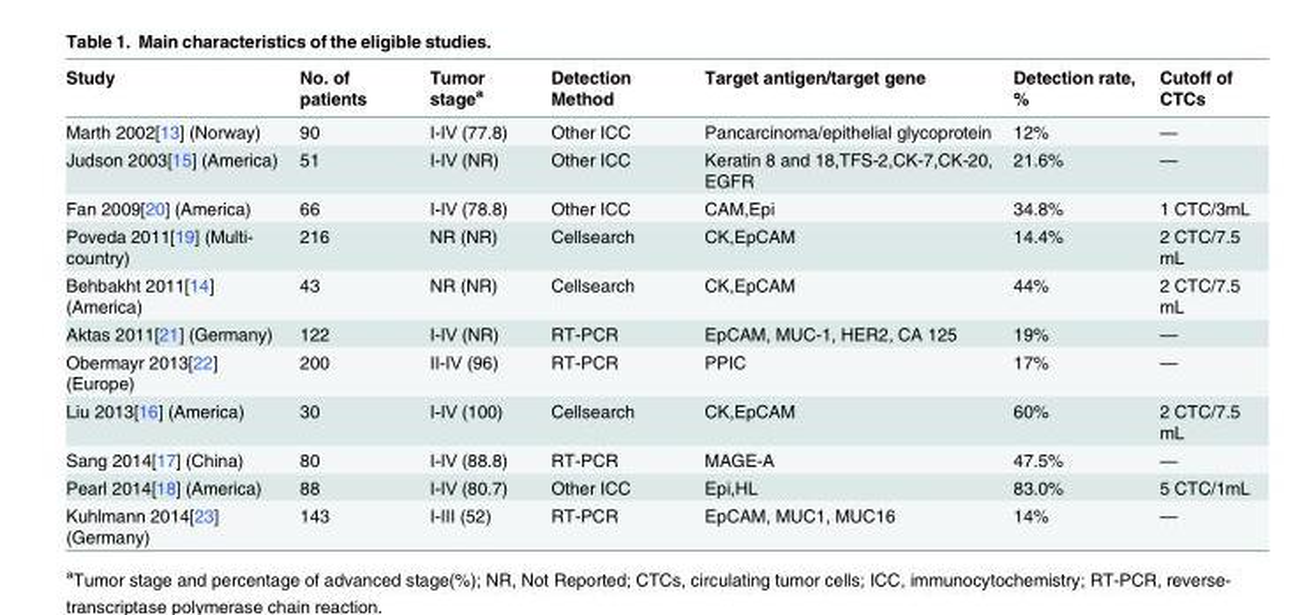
<table><thead><tr><td>Study</td><td>No. of patients</td><td>Tumor stage<sup>a</sup></td><td>Detection Method</td><td>Target antigen/target gene</td><td>Detection rate, %</td><td>Cutoff of CTCs</td></tr></thead><tbody><tr><td>Marth 2002[13] (Norway)</td><td>90</td><td>Ⅰ-Ⅳ (77.8)</td><td>Other ICC</td><td>Pancarcinoma/epithelial glycoprotein</td><td>12%</td><td>—</td></tr><tr><td>Judson 2003[15] (America)</td><td>51</td><td>Ⅰ-Ⅳ (NR)</td><td>Other ICC</td><td>Keratin 8 and 18,TFS-2,CK-7,CK-20, EGFR</td><td>21.6%</td><td>—</td></tr><tr><td>Fan 2009[20] (America)</td><td>66</td><td>Ⅰ-Ⅳ (78.8)</td><td>Other ICC</td><td>CAM,Epi</td><td>34.8%</td><td>1 CTC/3mL</td></tr><tr><td>Poveda 2011[19] (Multi- country)</td><td>216</td><td>NR (NR)</td><td>Cellsearch</td><td>CK,EpCAM</td><td>14.4%</td><td>2 CTC/7.5 mL</td></tr><tr><td>Behbakht 2011[14] (America)</td><td>43</td><td>NR (NR)</td><td>Cellsearch</td><td>CK,EpCAM</td><td>44%</td><td>2 CTC/7.5 mL</td></tr><tr><td>Aktas 2011[21] (Germany)</td><td>122</td><td>Ⅰ-Ⅳ (NR)</td><td>RT-PCR</td><td>EpCAM, MUC-1, HER2, CA 125</td><td>19%</td><td>—</td></tr><tr><td>Obermayr 2013[22] (Europe)</td><td>200</td><td>Ⅱ-Ⅳ (96)</td><td>RT-PCR</td><td>PPIC</td><td>17%</td><td>—</td></tr><tr><td>Liu 2013[16] (America)</td><td>30</td><td>Ⅰ-Ⅳ (100)</td><td>Cellsearch</td><td>CK,EpCAM</td><td>60%</td><td>2 CTC/7.5 mL</td></tr><tr><td>Sang 2014[17] (China)</td><td>80</td><td>Ⅰ-Ⅳ (88.8)</td><td>RT-PCR</td><td>MAGE-A</td><td>47.5%</td><td>—</td></tr><tr><td>Pearl 2014[18] (America)</td><td>88</td><td>Ⅰ-Ⅳ (80.7)</td><td>Other ICC</td><td>Epi,HL</td><td>83.0%</td><td>5 CTC/1mL</td></tr><tr><td>Kuhlmann 2014[23] (Germany)</td><td>143</td><td>Ⅰ-Ⅲ (52)</td><td>RT-PCR</td><td>EpCAM, MUC1, MUC16</td><td>14%</td><td>—</td></tr></tbody></table>